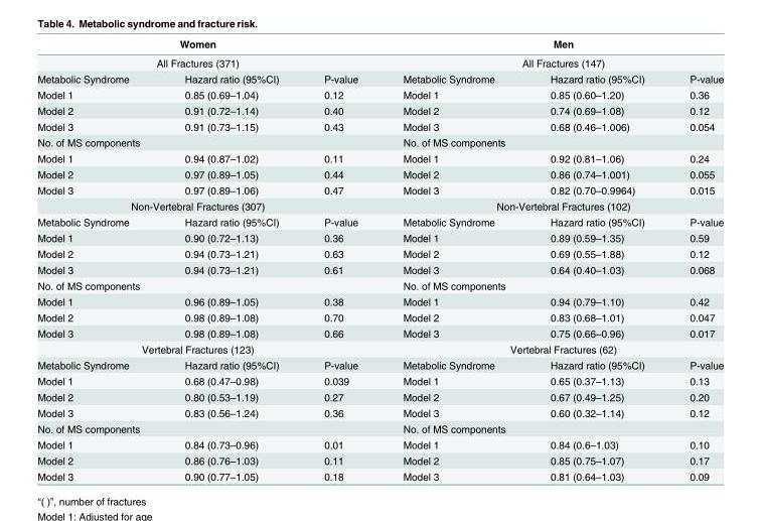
<table><thead><tr><td rowspan="2" colspan="3">Women All Fractures (371)</td><td rowspan="2" colspan="3">Men All Fractures (147)</td></tr><tr></tr><tr><td>Metabolic Syndrome</td><td>Hazard ratio (95%CI)</td><td>P-value</td><td>Metabolic Syndrome</td><td>Hazard ratio (95%CI)</td><td>P-value</td></tr></thead><tbody><tr><td>Model 1</td><td>0.85 (0.69–1.04)</td><td>0.12</td><td>Model 1</td><td>0.85 (0.60–1.20)</td><td>0.36</td></tr><tr><td>Model 2</td><td>0.91 (0.72–1.14)</td><td>0.40</td><td>Model 2</td><td>0.74 (0.69–1.08)</td><td>0.12</td></tr><tr><td>Model 3</td><td>0.91 (0.73–1.15)</td><td>0.43</td><td>Model 3</td><td>0.68 (0.46–1.006)</td><td>0.054</td></tr><tr><td>No. of MS components</td><td></td><td></td><td>No. of MS components</td><td></td><td></td></tr><tr><td>Model 1</td><td>0.94 (0.87–1.02)</td><td>0.11</td><td>Model 1</td><td>0.92 (0.81–1.06)</td><td>0.24</td></tr><tr><td>Model 2</td><td>0.97 (0.89–1.05)</td><td>0.44</td><td>Model 2</td><td>0.86 (0.74–1.001)</td><td>0.055</td></tr><tr><td>Model 3</td><td>0.97 (0.89–1.06)</td><td>0.47</td><td>Model 3</td><td>0.82 (0.70–0.9964)</td><td>0.015</td></tr><tr><td colspan="3">Non-Vertebral Fractures (307)</td><td colspan="3">Non-Vertebral Fractures (102)</td></tr><tr><td>Metabolic Syndrome</td><td>Hazard ratio (95%CI)</td><td>P-value</td><td>Metabolic Syndrome</td><td>Hazard ratio (95%CI)</td><td>P-value</td></tr><tr><td>Model 1</td><td>0.90 (0.72–1.13)</td><td>0.36</td><td>Model 1</td><td>0.89 (0.59–1.35)</td><td>0.59</td></tr><tr><td>Model 2</td><td>0.94 (0.73–1.21)</td><td>0.63</td><td>Model 2</td><td>0.69 (0.55–1.88)</td><td>0.12</td></tr><tr><td>Model 3</td><td>0.94 (0.73–1.21)</td><td>0.61</td><td>Model 3</td><td>0.64 (0.40–1.03)</td><td>0.068</td></tr><tr><td>No. of MS components</td><td></td><td></td><td>No. of MS components</td><td></td><td></td></tr><tr><td>Model 1</td><td>0.96 (0.89–1.05)</td><td>0.38</td><td>Model 1</td><td>0.94 (0.79–1.10)</td><td>0.42</td></tr><tr><td>Model 2</td><td>0.98 (0.89–1.08)</td><td>0.70</td><td>Model 2</td><td>0.83 (0.68–1.01)</td><td>0.047</td></tr><tr><td>Model 3</td><td>0.98 (0.89–1.08)</td><td>0.66</td><td>Model 3</td><td>0.75 (0.66–0.96)</td><td>0.017</td></tr><tr><td colspan="3">Vertebral Fractures (123)</td><td colspan="3">Vertebral Fractures (62)</td></tr><tr><td>Metabolic Syndrome</td><td>Hazard ratio (95%CI)</td><td>P-value</td><td>Metabolic Syndrome</td><td>Hazard ratio (95%CI)</td><td>P-value</td></tr><tr><td>Model 1</td><td>0.68 (0.47–0.98)</td><td>0.039</td><td>Model 1</td><td>0.65 (0.37–1.13)</td><td>0.13</td></tr><tr><td>Model 2</td><td>0.80 (0.53–1.19)</td><td>0.27</td><td>Model 2</td><td>0.67 (0.49–1.25)</td><td>0.20</td></tr><tr><td>Model 3</td><td>0.83 (0.56–1.24)</td><td>0.36</td><td>Model 3</td><td>0.60 (0.32–1.14)</td><td>0.12</td></tr><tr><td>No. of MS components</td><td></td><td></td><td>No. of MS components</td><td></td><td></td></tr><tr><td>Model 1</td><td>0.84 (0.73–0.96)</td><td>0.01</td><td>Model 1</td><td>0.84 (0.6–1.03)</td><td>0.10</td></tr><tr><td>Model 2</td><td>0.86 (0.76–1.03)</td><td>0.11</td><td>Model 2</td><td>0.85 (0.75–1.07)</td><td>0.17</td></tr><tr><td>Model 3</td><td>0.90 (0.77–1.05)</td><td>0.18</td><td>Model 3</td><td>0.81 (0.64–1.03)</td><td>0.09</td></tr></tbody></table>